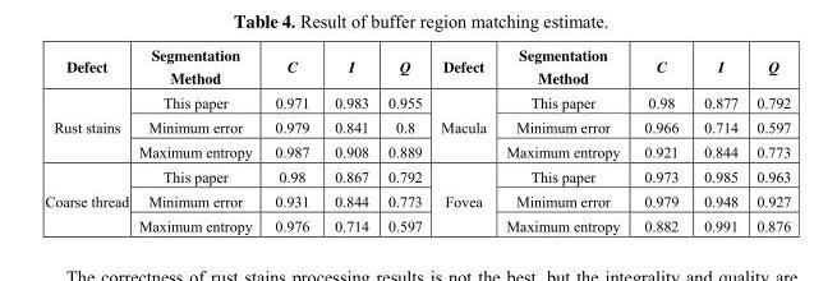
<table><thead><tr><td>Defect</td><td>Segmentation Method</td><td>C</td><td>I</td><td>Q</td><td>Defect</td><td>Segmentation Method</td><td>C</td><td>I</td><td>Q</td></tr></thead><tbody><tr><td rowspan="3">Rust stains</td><td>This paper</td><td>0.971</td><td>0.983</td><td>0.955</td><td rowspan="3">Macula</td><td>This paper</td><td>0.98</td><td>0.877</td><td>0.792</td></tr><tr><td>Minimum error</td><td>0.979</td><td>0.841</td><td>0.8</td><td>Minimum error</td><td>0.966</td><td>0.714</td><td>0.597</td></tr><tr><td>Maximum entropy</td><td>0.987</td><td>0.908</td><td>0.889</td><td>Maximum entropy</td><td>0.921</td><td>0.844</td><td>0.773</td></tr><tr><td rowspan="3">Coarse thread</td><td>This paper</td><td>0.98</td><td>0.867</td><td>0.792</td><td rowspan="3">Fovea</td><td>This paper</td><td>0.973</td><td>0.985</td><td>0.963</td></tr><tr><td>Minimum error</td><td>0.931</td><td>0.844</td><td>0.773</td><td>Minimum error</td><td>0.979</td><td>0.948</td><td>0.927</td></tr><tr><td>Maximum entropy</td><td>0.976</td><td>0.714</td><td>0.597</td><td>Maximum entropy</td><td>0.882</td><td>0.991</td><td>0.876</td></tr></tbody></table>